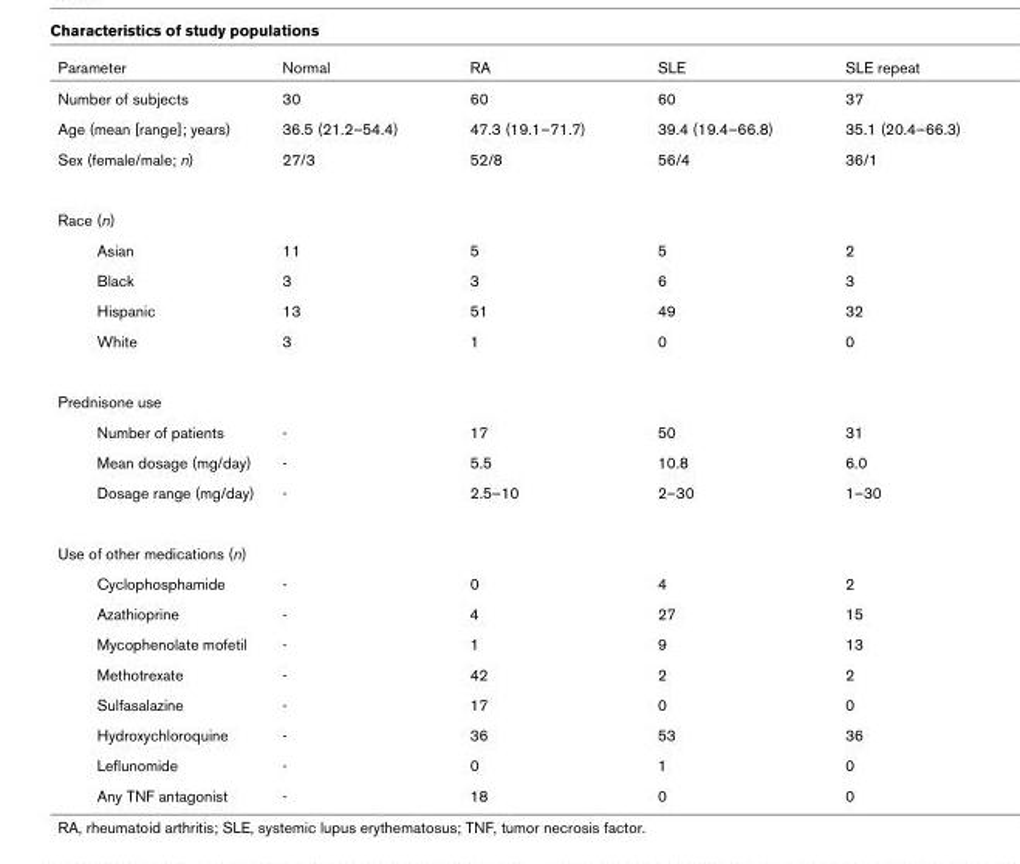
<table><thead><tr><td>Parameter</td><td>Normal</td><td>RA</td><td>SLE</td><td>SLE repeat</td></tr></thead><tbody><tr><td>Number of subjects</td><td>30</td><td>60</td><td>60</td><td>37</td></tr><tr><td>Age (mean [range]; years)</td><td>36.5 (21.2–54.4)</td><td>47.3 (19.1–71.7)</td><td>39.4 (19.4–66.8)</td><td>35.1 (20.4–66.3)</td></tr><tr><td>Sex (female/male; n)</td><td>27/3</td><td>52/8</td><td>56/4</td><td>36/1</td></tr><tr><td colspan="5">Race (n)</td></tr><tr><td>Asian</td><td>11</td><td>5</td><td>5</td><td>2</td></tr><tr><td>Black</td><td>3</td><td>3</td><td>6</td><td>3</td></tr><tr><td>Hispanic</td><td>13</td><td>51</td><td>49</td><td>32</td></tr><tr><td>White</td><td>3</td><td>1</td><td>0</td><td>0</td></tr><tr><td colspan="5">Prednisone use</td></tr><tr><td>Number of patients</td><td>-</td><td>17</td><td>50</td><td>31</td></tr><tr><td>Mean dosage (mg/day)</td><td>-</td><td>5.5</td><td>10.8</td><td>6.0</td></tr><tr><td>Dosage range (mg/day)</td><td>-</td><td>2.5–10</td><td>2–30</td><td>1–30</td></tr><tr><td colspan="5">Use of other medications (n)</td></tr><tr><td>Cyclophosphamide</td><td>-</td><td>0</td><td>4</td><td>2</td></tr><tr><td>Azathioprine</td><td>-</td><td>4</td><td>27</td><td>15</td></tr><tr><td>Mycophenolate mofetil</td><td>-</td><td>1</td><td>9</td><td>13</td></tr><tr><td>Methotrexate</td><td>-</td><td>42</td><td>2</td><td>2</td></tr><tr><td>Sulfasalazine</td><td>-</td><td>17</td><td>0</td><td>0</td></tr><tr><td>Hydroxychloroquine</td><td>-</td><td>36</td><td>53</td><td>36</td></tr><tr><td>Leflunomide</td><td>-</td><td>0</td><td>1</td><td>0</td></tr><tr><td>Any TNF antagonist</td><td>-</td><td>18</td><td>0</td><td>0</td></tr></tbody></table>